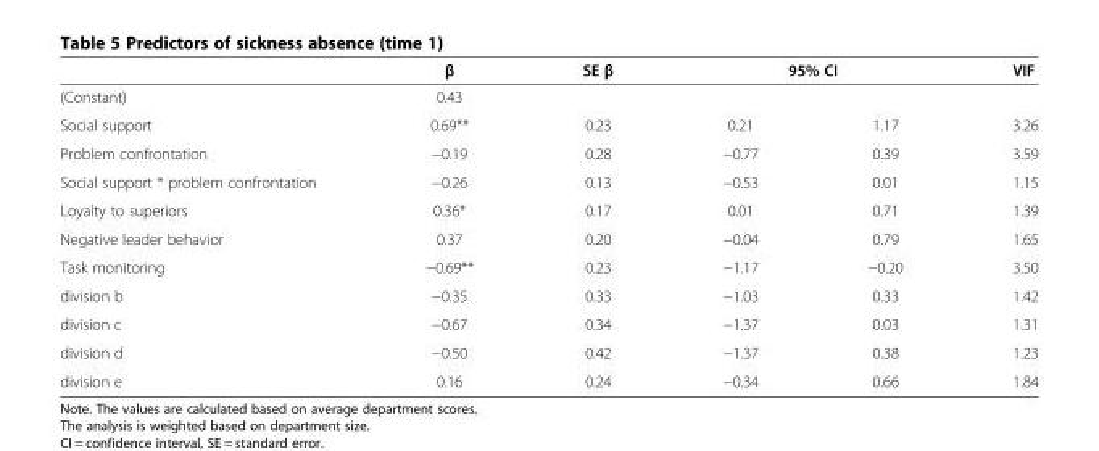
<table><thead><tr><td rowspan="2">(Constant)</td><td rowspan="2">β 0.43</td><td rowspan="2">SE β</td><td colspan="2">95% CI</td><td rowspan="2">VIF</td></tr><tr><td></td><td></td></tr></thead><tbody><tr><td>Social support</td><td>0.69**</td><td>0.23</td><td>0.21</td><td>1.17</td><td>3.26</td></tr><tr><td>Problem confrontation</td><td>−0.19</td><td>0.28</td><td>−0.77</td><td>0.39</td><td>3.59</td></tr><tr><td>Social support * problem confrontation</td><td>−0.26</td><td>0.13</td><td>−0.53</td><td>0.01</td><td>1.15</td></tr><tr><td>Loyalty to superiors</td><td>0.36*</td><td>0.17</td><td>0.01</td><td>0.71</td><td>1.39</td></tr><tr><td>Negative leader behavior</td><td>0.37</td><td>0.20</td><td>−0.04</td><td>0.79</td><td>1.65</td></tr><tr><td>Task monitoring</td><td>−0.69**</td><td>0.23</td><td>−1.17</td><td>−0.20</td><td>3.50</td></tr><tr><td>division b</td><td>−0.35</td><td>0.33</td><td>−1.03</td><td>0.33</td><td>1.42</td></tr><tr><td>division c</td><td>−0.67</td><td>0.34</td><td>−1.37</td><td>0.03</td><td>1.31</td></tr><tr><td>division d</td><td>−0.50</td><td>0.42</td><td>−1.37</td><td>0.38</td><td>1.23</td></tr><tr><td>division e</td><td>0.16</td><td>0.24</td><td>−0.34</td><td>0.66</td><td>1.84</td></tr></tbody></table>